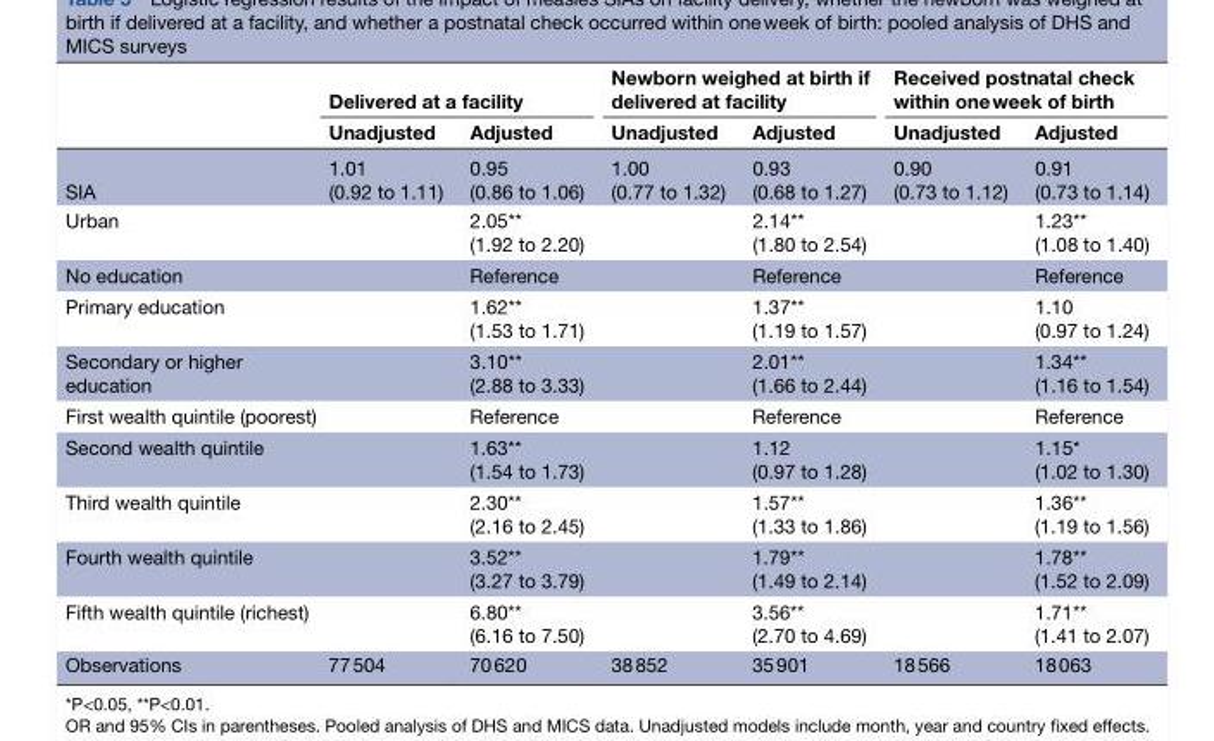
<table><thead><tr><td rowspan="2"></td><td colspan="2">Delivered at a facility</td><td colspan="2">Newborn weighed at birth if delivered at facility</td><td colspan="2">Received postnatal check within one week of birth</td></tr><tr><td>Unadjusted</td><td>Adjusted</td><td>Unadjusted</td><td>Adjusted</td><td>Unadjusted</td><td>Adjusted</td></tr></thead><tbody><tr><td>SIA</td><td>1.01 (0.92 to 1.11)</td><td>0.95 (0.86 to 1.06)</td><td>1.00 (0.77 to 1.32)</td><td>0.93 (0.68 to 1.27)</td><td>0.90 (0.73 to 1.12)</td><td>0.91 (0.73 to 1.14)</td></tr><tr><td>Urban</td><td></td><td>2.05** (1.92 to 2.20)</td><td></td><td>2.14** (1.80 to 2.54)</td><td></td><td>1.23** (1.08 to 1.40)</td></tr><tr><td>No education</td><td></td><td>Reference</td><td></td><td>Reference</td><td></td><td>Reference</td></tr><tr><td>Primary education</td><td></td><td>1.62** (1.53 to 1.71)</td><td></td><td>1.37** (1.19 to 1.57)</td><td></td><td>1.10 (0.97 to 1.24)</td></tr><tr><td>Secondary or higher education</td><td></td><td>3.10** (2.88 to 3.33)</td><td></td><td>2.01** (1.66 to 2.44)</td><td></td><td>1.34** (1.16 to 1.54)</td></tr><tr><td>First wealth quintile (poorest)</td><td></td><td>Reference</td><td></td><td>Reference</td><td></td><td>Reference</td></tr><tr><td>Second wealth quintile</td><td></td><td>1.63** (1.54 to 1.73)</td><td></td><td>1.12 (0.97 to 1.28)</td><td></td><td>1.15* (1.02 to 1.30)</td></tr><tr><td>Third wealth quintile</td><td></td><td>2.30** (2.16 to 2.45)</td><td></td><td>1.57** (1.33 to 1.86)</td><td></td><td>1.36** (1.19 to 1.56)</td></tr><tr><td>Fourth wealth quintile</td><td></td><td>3.52** (3.27 to 3.79)</td><td></td><td>1.79** (1.49 to 2.14)</td><td></td><td>1.78** (1.52 to 2.09)</td></tr><tr><td>Fifth wealth quintile (richest)</td><td></td><td>6.80** (6.16 to 7.50)</td><td></td><td>3.56** (2.70 to 4.69)</td><td></td><td>1.71** (1.41 to 2.07)</td></tr><tr><td>Observations</td><td>77 504</td><td>70 620</td><td>38 852</td><td>35 901</td><td>18 566</td><td>18 063</td></tr></tbody></table>